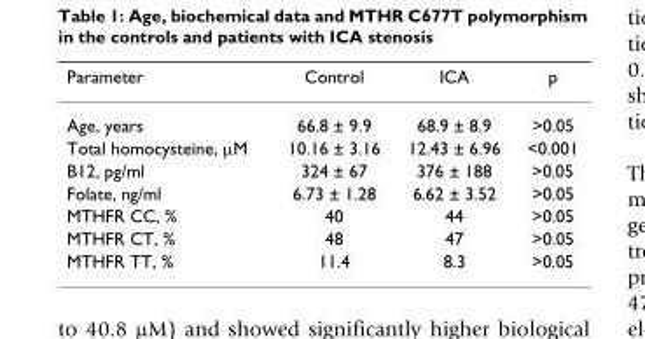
<table><thead><tr><td>Parameter</td><td>Control</td><td>ICA</td><td>p</td></tr></thead><tbody><tr><td>Age, years</td><td>66.8 ± 9.9</td><td>68.9 ± 8.9</td><td>&gt;0.05</td></tr><tr><td>Total homocysteine, μM</td><td>10.16 ± 3.16</td><td>12.43 ± 6.96</td><td>&lt;0.001</td></tr><tr><td>B12, pg/ml</td><td>324 ± 67</td><td>376 ± 188</td><td>&gt;0.05</td></tr><tr><td>Folate, ng/ml</td><td>6.73 ± 1.28</td><td>6.62 ± 3.52</td><td>&gt;0.05</td></tr><tr><td>MTHFR CC, %</td><td>40</td><td>44</td><td>&gt;0.05</td></tr><tr><td>MTHFR CT, %</td><td>48</td><td>47</td><td>&gt;0.05</td></tr><tr><td>MTHFR TT, %</td><td>11.4</td><td>8.3</td><td>&gt;0.05</td></tr></tbody></table>